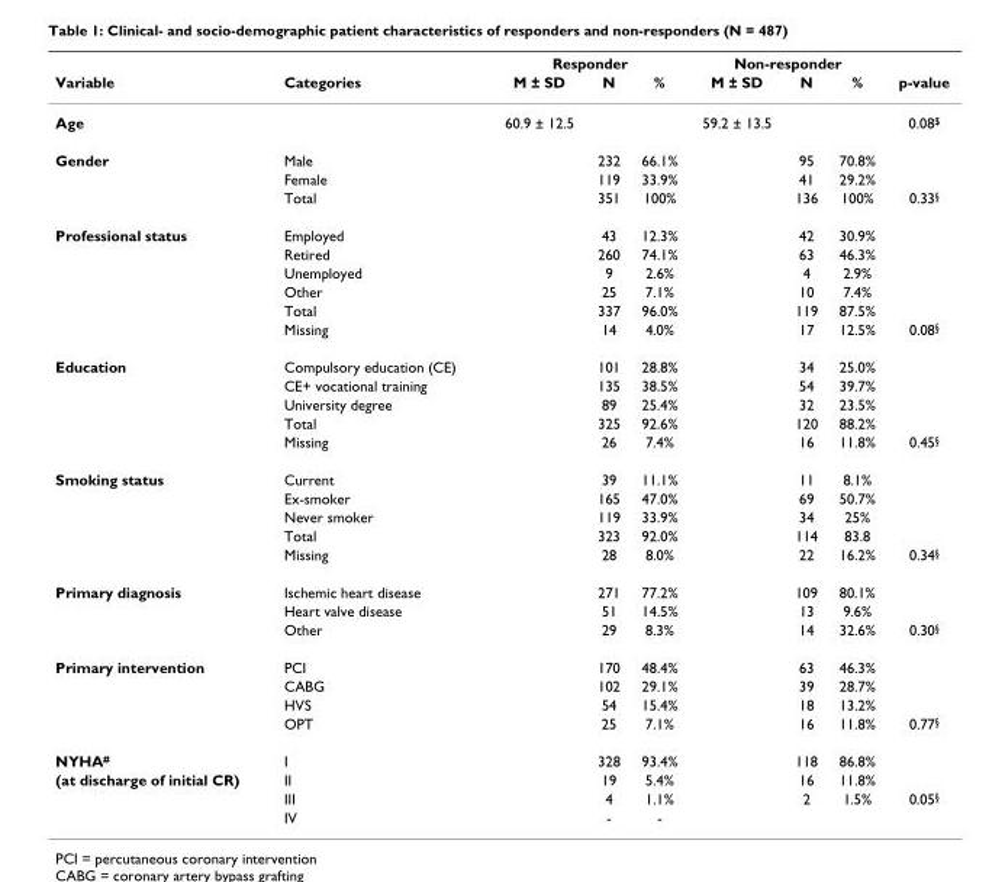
<table><thead><tr><td rowspan="2">Variable</td><td rowspan="2">Categories</td><td colspan="3">Responder</td><td colspan="3">Non-responder</td><td rowspan="2">p-value</td></tr><tr><td>M ± SD</td><td>N</td><td>%</td><td>M ± SD</td><td>N</td><td>%</td></tr></thead><tbody><tr><td>Age</td><td></td><td>60.9 ± 12.5</td><td></td><td></td><td>59.2 ± 13.5</td><td></td><td></td><td>0.08<sup>$</sup></td></tr><tr><td rowspan="3">Gender</td><td>Male</td><td></td><td>232</td><td>66.1%</td><td></td><td>95</td><td>70.8%</td><td></td></tr><tr><td>Female</td><td></td><td>119</td><td>33.9%</td><td></td><td>41</td><td>29.2%</td><td></td></tr><tr><td>Total</td><td></td><td>351</td><td>100%</td><td></td><td>136</td><td>100%</td><td>0.33<sup>§</sup></td></tr><tr><td rowspan="6">Professional status</td><td>Employed</td><td></td><td>43</td><td>12.3%</td><td></td><td>42</td><td>30.9%</td><td></td></tr><tr><td>Retired</td><td></td><td>260</td><td>74.1%</td><td></td><td>63</td><td>46.3%</td><td></td></tr><tr><td>Unemployed</td><td></td><td>9</td><td>2.6%</td><td></td><td>4</td><td>2.9%</td><td></td></tr><tr><td>Other</td><td></td><td>25</td><td>7.1%</td><td></td><td>10</td><td>7.4%</td><td></td></tr><tr><td>Total</td><td></td><td>337</td><td>96.0%</td><td></td><td>119</td><td>87.5%</td><td></td></tr><tr><td>Missing</td><td></td><td>14</td><td>4.0%</td><td></td><td>17</td><td>12.5%</td><td>0.08<sup>§</sup></td></tr><tr><td rowspan="5">Education</td><td>Compulsory education (CE)</td><td></td><td>101</td><td>28.8%</td><td></td><td>34</td><td>25.0%</td><td></td></tr><tr><td>CE+ vocational training</td><td></td><td>135</td><td>38.5%</td><td></td><td>54</td><td>39.7%</td><td></td></tr><tr><td>University degree</td><td></td><td>89</td><td>25.4%</td><td></td><td>32</td><td>23.5%</td><td></td></tr><tr><td>Total</td><td></td><td>325</td><td>92.6%</td><td></td><td>120</td><td>88.2%</td><td></td></tr><tr><td>Missing</td><td></td><td>26</td><td>7.4%</td><td></td><td>16</td><td>11.8%</td><td>0.45<sup>§</sup></td></tr><tr><td rowspan="5">Smoking status</td><td>Current</td><td></td><td>39</td><td>11.1%</td><td></td><td>11</td><td>8.1%</td><td></td></tr><tr><td>Ex-smoker</td><td></td><td>165</td><td>47.0%</td><td></td><td>69</td><td>50.7%</td><td></td></tr><tr><td>Never smoker</td><td></td><td>119</td><td>33.9%</td><td></td><td>34</td><td>25%</td><td></td></tr><tr><td>Total</td><td></td><td>323</td><td>92.0%</td><td></td><td>114</td><td>83.8</td><td></td></tr><tr><td>Missing</td><td></td><td>28</td><td>8.0%</td><td></td><td>22</td><td>16.2%</td><td>0.34<sup>§</sup></td></tr><tr><td rowspan="3">Primary diagnosis</td><td>Ischemic heart disease</td><td></td><td>271</td><td>77.2%</td><td></td><td>109</td><td>80.1%</td><td></td></tr><tr><td>Heart valve disease</td><td></td><td>51</td><td>14.5%</td><td></td><td>13</td><td>9.6%</td><td></td></tr><tr><td>Other</td><td></td><td>29</td><td>8.3%</td><td></td><td>14</td><td>32.6%</td><td>0.30<sup>§</sup></td></tr><tr><td rowspan="4">Primary intervention</td><td>PCI</td><td></td><td>170</td><td>48.4%</td><td></td><td>63</td><td>46.3%</td><td></td></tr><tr><td>CABG</td><td></td><td>102</td><td>29.1%</td><td></td><td>39</td><td>28.7%</td><td></td></tr><tr><td>HVS</td><td></td><td>54</td><td>15.4%</td><td></td><td>18</td><td>13.2%</td><td></td></tr><tr><td>OPT</td><td></td><td>25</td><td>7.1%</td><td></td><td>16</td><td>11.8%</td><td>0.77<sup>§</sup></td></tr><tr><td>NYHA<sup>#</sup></td><td>I</td><td></td><td>328</td><td>93.4%</td><td></td><td>118</td><td>86.8%</td><td></td></tr><tr><td rowspan="3">(at discharge of initial CR)</td><td>II</td><td></td><td>19</td><td>5.4%</td><td></td><td>16</td><td>11.8%</td><td></td></tr><tr><td>III</td><td></td><td>4</td><td>1.1%</td><td></td><td>2</td><td>1.5%</td><td>0.05<sup>§</sup></td></tr><tr><td>IV</td><td></td><td>-</td><td>-</td><td></td><td></td><td></td><td></td></tr></tbody></table>